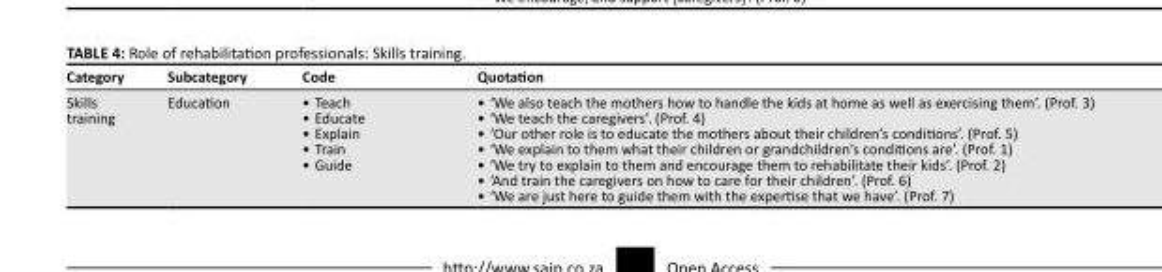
<table><thead><tr><td>Category</td><td>Subcategory</td><td>Code</td><td>Quotation</td></tr></thead><tbody><tr><td>Skills training</td><td>Education</td><td>• Teach • Educate • Explain • Train • Guide</td><td>• ‘We also teach the mothers how to handle the kids at home as well as exercising them’. (Prof. 3) • ‘We teach the caregivers’. (Prof. 4) • ‘Our other role is to educate the mothers about their children’s conditions’. (Prof. 5) • ‘We explain to them what their children or grandchildren’s conditions are’. (Prof. 1) • ‘We try to explain to them and encourage them to rehabilitate their kids’. (Prof. 2) • ‘And train the caregivers on how to care for their children’. (Prof. 6) • ‘We are just here to guide them with the expertise that we have’. (Prof. 7)</td></tr></tbody></table>